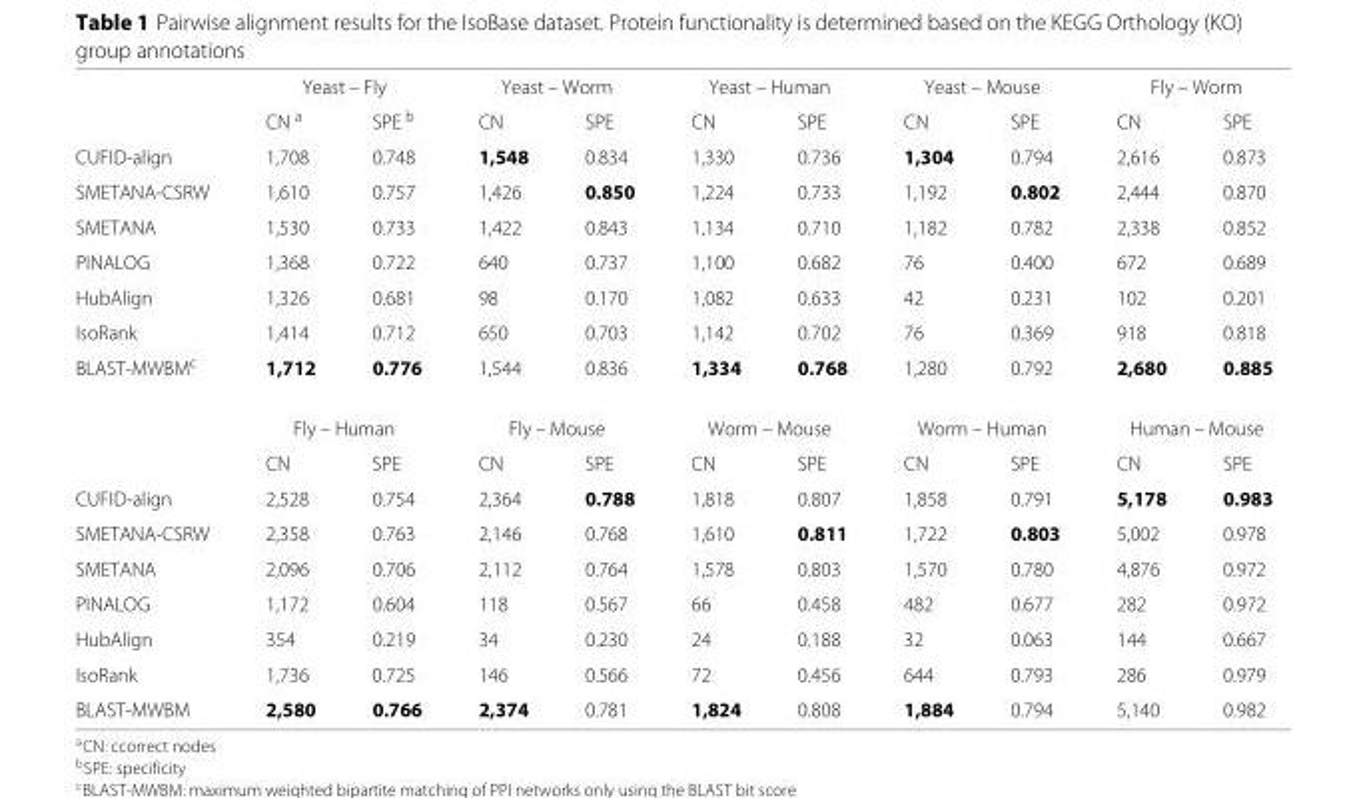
<table><thead><tr><td rowspan="2"></td><td colspan="2">Yeast – Fly</td><td colspan="2">Yeast – Worm</td><td colspan="2">Yeast – Human</td><td colspan="2">Yeast – Mouse</td><td colspan="2">Fly – Worm</td></tr><tr><td>CN <sup>a</sup></td><td>SPE <sup>b</sup></td><td>CN</td><td>SPE</td><td>CN</td><td>SPE</td><td>CN</td><td>SPE</td><td>CN</td><td>SPE</td></tr></thead><tbody><tr><td>CUFID-align</td><td>1,708</td><td>0.748</td><td>1,548</td><td>0.834</td><td>1,330</td><td>0.736</td><td>1,304</td><td>0.794</td><td>2,616</td><td>0.873</td></tr><tr><td>SMETANA-CSRW</td><td>1,610</td><td>0.757</td><td>1,426</td><td>0.850</td><td>1,224</td><td>0.733</td><td>1,192</td><td>0.802</td><td>2,444</td><td>0.870</td></tr><tr><td>SMETANA</td><td>1,530</td><td>0.733</td><td>1,422</td><td>0.843</td><td>1,134</td><td>0.710</td><td>1,182</td><td>0.782</td><td>2,338</td><td>0.852</td></tr><tr><td>PINALOG</td><td>1,368</td><td>0.722</td><td>640</td><td>0.737</td><td>1,100</td><td>0.682</td><td>76</td><td>0.400</td><td>672</td><td>0.689</td></tr><tr><td>HubAlign</td><td>1,326</td><td>0.681</td><td>98</td><td>0.170</td><td>1,082</td><td>0.633</td><td>42</td><td>0.231</td><td>102</td><td>0.201</td></tr><tr><td>IsoRank</td><td>1,414</td><td>0.712</td><td>650</td><td>0.703</td><td>1,142</td><td>0.702</td><td>76</td><td>0.369</td><td>918</td><td>0.818</td></tr><tr><td rowspan="3">BLAST-MWBM<sup>c</sup></td><td>1,712</td><td>0.776</td><td>1,544</td><td>0.836</td><td>1,334</td><td>0.768</td><td>1,280</td><td>0.792</td><td>2,680</td><td>0.885</td></tr><tr><td colspan="2">Fly – Human</td><td colspan="2">Fly – Mouse</td><td colspan="2">Worm – Mouse</td><td colspan="2">Worm – Human</td><td colspan="2">Human – Mouse</td></tr><tr><td>CN</td><td>SPE</td><td>CN</td><td>SPE</td><td>CN</td><td>SPE</td><td>CN</td><td>SPE</td><td>CN</td><td>SPE</td></tr><tr><td>CUFID-align</td><td>2,528</td><td>0.754</td><td>2,364</td><td>0.788</td><td>1,818</td><td>0.807</td><td>1,858</td><td>0.791</td><td>5,178</td><td>0.983</td></tr><tr><td>SMETANA-CSRW</td><td>2,358</td><td>0.763</td><td>2,146</td><td>0.768</td><td>1,610</td><td>0.811</td><td>1,722</td><td>0.803</td><td>5,002</td><td>0.978</td></tr><tr><td>SMETANA</td><td>2,096</td><td>0.706</td><td>2,112</td><td>0.764</td><td>1,578</td><td>0.803</td><td>1,570</td><td>0.780</td><td>4,876</td><td>0.972</td></tr><tr><td>PINALOG</td><td>1,172</td><td>0.604</td><td>118</td><td>0.567</td><td>66</td><td>0.458</td><td>482</td><td>0.677</td><td>282</td><td>0.972</td></tr><tr><td>HubAlign</td><td>354</td><td>0.219</td><td>34</td><td>0.230</td><td>24</td><td>0.188</td><td>32</td><td>0.063</td><td>144</td><td>0.667</td></tr><tr><td>IsoRank</td><td>1,736</td><td>0.725</td><td>146</td><td>0.566</td><td>72</td><td>0.456</td><td>644</td><td>0.793</td><td>286</td><td>0.979</td></tr><tr><td>BLAST-MWBM</td><td>2,580</td><td>0.766</td><td>2,374</td><td>0.781</td><td>1,824</td><td>0.808</td><td>1,884</td><td>0.794</td><td>5,140</td><td>0.982</td></tr></tbody></table>